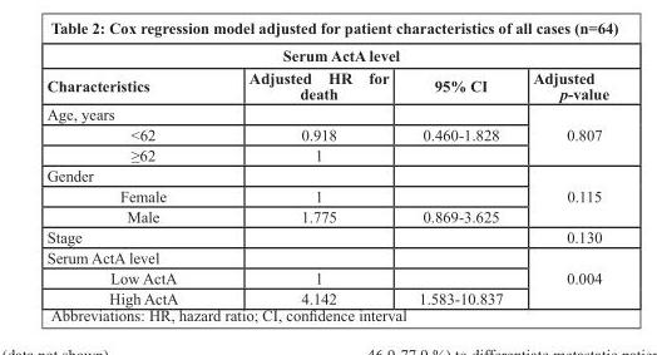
<table><thead><tr><td colspan="4">Serum ActA level</td></tr><tr><td>Characteristics</td><td>Adjusted HR for death</td><td>95% CI</td><td>Adjusted p-value</td></tr></thead><tbody><tr><td colspan="3">Age, years</td><td rowspan="3">0.807</td></tr><tr><td>&lt;62</td><td>0.918</td><td>0.460-1.828</td></tr><tr><td>≥62</td><td>1</td><td></td></tr><tr><td colspan="3">Gender</td><td rowspan="3">0.115</td></tr><tr><td>Female</td><td>1</td><td></td></tr><tr><td>Male</td><td>1.775</td><td>0.869-3.625</td></tr><tr><td>Stage</td><td></td><td></td><td>0.130</td></tr><tr><td colspan="3">Serum ActA level</td><td rowspan="3">0.004</td></tr><tr><td>Low ActA</td><td>1</td><td></td></tr><tr><td>High ActA</td><td>4.142</td><td>1.583-10.837</td></tr></tbody></table>